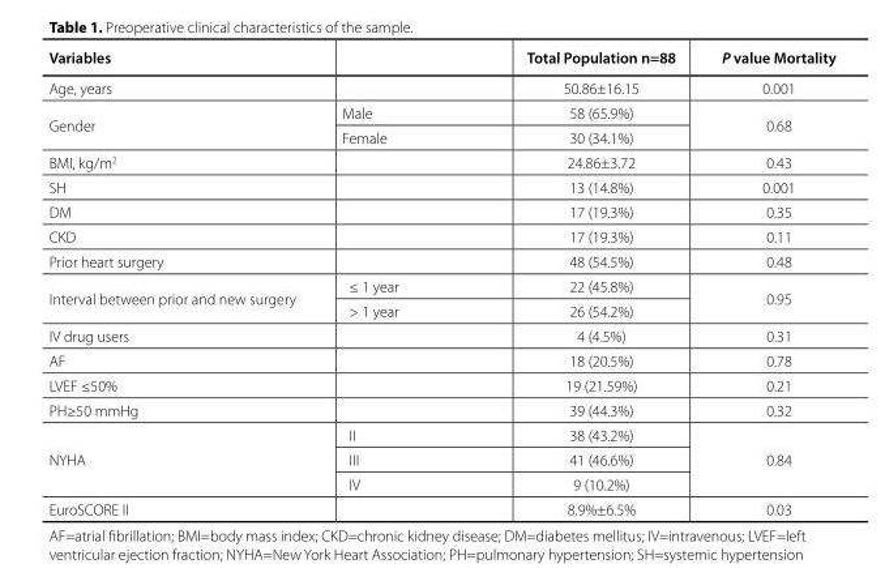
<table><thead><tr><td>Variables</td><td></td><td>Total Population n=88</td><td>P value Mortality</td></tr></thead><tbody><tr><td>Age, years</td><td></td><td>50.86±16.15</td><td>0.001</td></tr><tr><td rowspan="2">Gender</td><td>Male</td><td>58 (65.9%)</td><td rowspan="2">0.68</td></tr><tr><td>Female</td><td>30 (34.1%)</td></tr><tr><td>BMI, kg/m<sup>2</sup></td><td></td><td>24.86±3.72</td><td>0.43</td></tr><tr><td>SH</td><td></td><td>13 (14.8%)</td><td>0.001</td></tr><tr><td>DM</td><td></td><td>17 (19.3%)</td><td>0.35</td></tr><tr><td>CKD</td><td></td><td>17 (19.3%)</td><td>0.11</td></tr><tr><td>Prior heart surgery</td><td></td><td>48 (54.5%)</td><td>0.48</td></tr><tr><td rowspan="2">Interval between prior and new surgery</td><td>≤ 1 year</td><td>22 (45.8%)</td><td rowspan="2">0.95</td></tr><tr><td>&gt; 1 year</td><td>26 (54.2%)</td></tr><tr><td>IV drug users</td><td></td><td>4 (4.5%)</td><td>0.31</td></tr><tr><td>AF</td><td></td><td>18 (20.5%)</td><td>0.78</td></tr><tr><td>LVEF ≤50%</td><td></td><td>19 (21.59%)</td><td>0.21</td></tr><tr><td>PH≥50 mmHg</td><td></td><td>39 (44.3%)</td><td>0.32</td></tr><tr><td rowspan="3">NYHA</td><td>II</td><td>38 (43.2%)</td><td rowspan="3">0.84</td></tr><tr><td>III</td><td>41 (46.6%)</td></tr><tr><td>IV</td><td>9 (10.2%)</td></tr><tr><td>EuroSCORE II</td><td></td><td>8.9%±6.5%</td><td>0.03</td></tr></tbody></table>